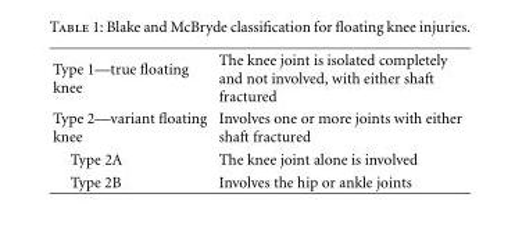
<table><tbody><tr><td>Type 1—true floating knee</td><td>The knee joint is isolated completely and not involved, with either shaft fractured</td></tr><tr><td>Type 2—variant floating knee</td><td>Involves one or more joints with either shaft fractured</td></tr><tr><td>Type 2A</td><td>The knee joint alone is involved</td></tr><tr><td>Type 2B</td><td>Involves the hip or ankle joints</td></tr></tbody></table>